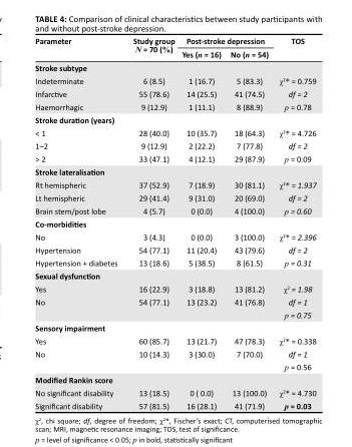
<table><thead><tr><td rowspan="2">Parameter</td><td rowspan="2">Study group N = 70 (%)</td><td colspan="2">Post-stroke depression</td><td rowspan="2">TOS</td></tr><tr><td>Yes (n = 16)</td><td>No (n = 54)</td></tr></thead><tbody><tr><td colspan="5">Stroke subtype</td></tr><tr><td>Indeterminate</td><td>6 (8.5)</td><td>1 (16.7)</td><td>5 (83.3)</td><td>χ<sup>2</sup>* = 0.759</td></tr><tr><td>Infarctive</td><td>55 (78.6)</td><td>14 (25.5)</td><td>41 (74.5)</td><td>df = 2</td></tr><tr><td>Haemorrhagic</td><td>9 (12.9)</td><td>1 (11.1)</td><td>8 (88.9)</td><td>p = 0.78</td></tr><tr><td colspan="5">Stroke duration (years)</td></tr><tr><td>&lt; 1</td><td>28 (40.0)</td><td>10 (35.7)</td><td>18 (64.3)</td><td>χ<sup>2</sup>* = 4.726</td></tr><tr><td>1–2</td><td>9 (12.9)</td><td>2 (22.2)</td><td>7 (77.8)</td><td>df = 2</td></tr><tr><td>&gt; 2</td><td>33 (47.1)</td><td>4 (12.1)</td><td>29 (87.9)</td><td>p = 0.09</td></tr><tr><td colspan="5">Stroke lateralisation</td></tr><tr><td>Rt hemispheric</td><td>37 (52.9)</td><td>7 (18.9)</td><td>30 (81.1)</td><td>χ<sup>2</sup>* = 1.937</td></tr><tr><td>Lt hemispheric</td><td>29 (41.4)</td><td>9 (31.0)</td><td>20 (69.0)</td><td>df = 2</td></tr><tr><td>Brain stem/post lobe</td><td>4 (5.7)</td><td>0 (0.0)</td><td>4 (100.0)</td><td>p = 0.60</td></tr><tr><td colspan="5">Co-morbidities</td></tr><tr><td>No</td><td>3 (4.3)</td><td>0 (0.0)</td><td>3 (100.0)</td><td>χ<sup>2</sup>* = 2.396</td></tr><tr><td>Hypertension</td><td>54 (77.1)</td><td>11 (20.4)</td><td>43 (79.6)</td><td>df = 2</td></tr><tr><td>Hypertension + diabetes</td><td>13 (18.6)</td><td>5 (38.5)</td><td>8 (61.5)</td><td>p = 0.31</td></tr><tr><td colspan="5">Sexual dysfunction</td></tr><tr><td>Yes</td><td>16 (22.9)</td><td>3 (18.8)</td><td>13 (81.2)</td><td>χ<sup>2</sup> = 1.98</td></tr><tr><td>No</td><td>54 (77.1)</td><td>13 (23.2)</td><td>41 (76.8)</td><td>df = 1 p = 0.75</td></tr><tr><td colspan="5">Sensory impairment</td></tr><tr><td>Yes</td><td>60 (85.7)</td><td>13 (21.7)</td><td>47 (78.3)</td><td>χ<sup>2</sup>* = 0.338</td></tr><tr><td>No</td><td>10 (14.3)</td><td>3 (30.0)</td><td>7 (70.0)</td><td>df = 1 p = 0.56</td></tr><tr><td colspan="5">Modified Rankin score</td></tr><tr><td>No significant disability</td><td>13 (18.5)</td><td>0 ( 0.0)</td><td>13 (100.0)</td><td>χ<sup>2</sup>* = 4.730</td></tr><tr><td>Significant disability</td><td>57 (81.5)</td><td>16 (28.1)</td><td>41 (71.9)</td><td>p = 0.03</td></tr></tbody></table>